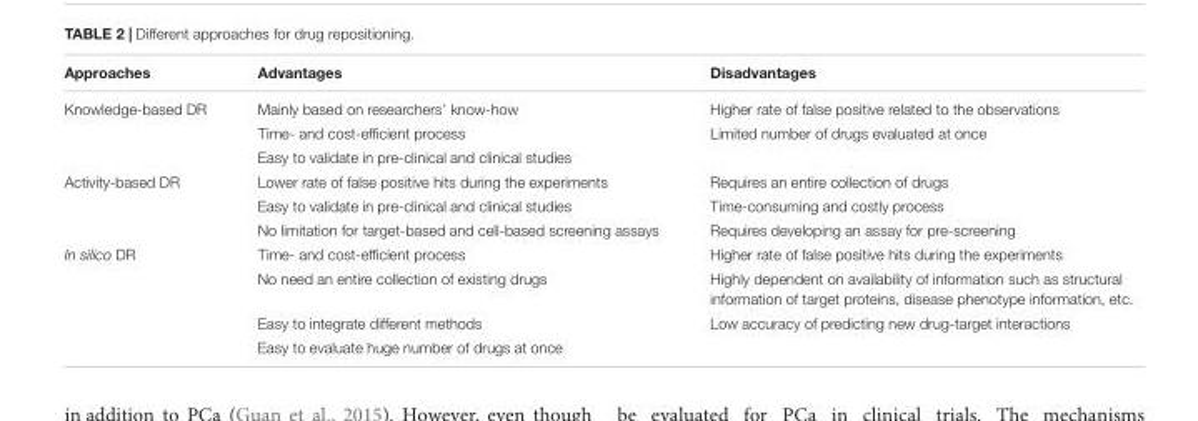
<table><thead><tr><td>Approaches</td><td>Advantages</td><td>Disadvantages</td></tr></thead><tbody><tr><td rowspan="3">Knowledge-based DR</td><td>Mainly based on researchers’ know-how</td><td>Higher rate of false positive related to the observations</td></tr><tr><td>Time- and cost-efficient process</td><td>Limited number of drugs evaluated at once</td></tr><tr><td>Easy to validate in pre-clinical and clinical studies</td><td></td></tr><tr><td rowspan="3">Activity-based DR</td><td>Lower rate of false positive hits during the experiments</td><td>Requires an entire collection of drugs</td></tr><tr><td>Easy to validate in pre-clinical and clinical studies</td><td>Time-consuming and costly process</td></tr><tr><td>No limitation for target-based and cell-based screening assays</td><td>Requires developing an assay for pre-screening</td></tr><tr><td rowspan="4">In silico DR</td><td>Time- and cost-efficient process</td><td>Higher rate of false positive hits during the experiments</td></tr><tr><td>No need an entire collection of existing drugs</td><td>Highly dependent on availability of information such as structural information of target proteins, disease phenotype information, etc.</td></tr><tr><td>Easy to integrate different methods</td><td>Low accuracy of predicting new drug-target interactions</td></tr><tr><td>Easy to evaluate huge number of drugs at once</td><td></td></tr></tbody></table>